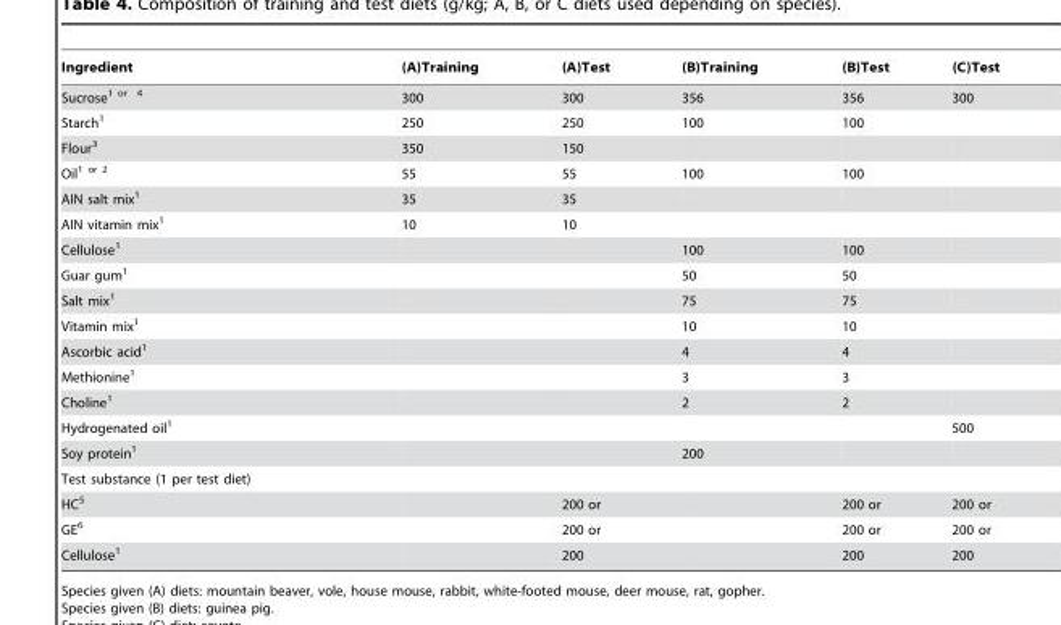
<table><thead><tr><td>Ingredient</td><td>(A)Training</td><td>(A)Test</td><td>(B)Training</td><td>(B)Test</td><td>(C)Test</td></tr></thead><tbody><tr><td>Sucrose<sup>1 or</sup> 4</td><td>300</td><td>300</td><td>356</td><td>356</td><td>300</td></tr><tr><td>Starch<sup>1</sup></td><td>250</td><td>250</td><td>100</td><td>100</td><td></td></tr><tr><td>Flour<sup>3</sup></td><td>350</td><td>150</td><td></td><td></td><td></td></tr><tr><td>Oil<sup>1 or</sup> 2</td><td>55</td><td>55</td><td>100</td><td>100</td><td></td></tr><tr><td>AIN salt mix<sup>1</sup></td><td>35</td><td>35</td><td></td><td></td><td></td></tr><tr><td>AIN vitamin mix<sup>1</sup></td><td>10</td><td>10</td><td></td><td></td><td></td></tr><tr><td>Cellulose<sup>1</sup></td><td></td><td></td><td>100</td><td>100</td><td></td></tr><tr><td>Guar gum<sup>1</sup></td><td></td><td></td><td>50</td><td>50</td><td></td></tr><tr><td>Salt mix<sup>1</sup></td><td></td><td></td><td>75</td><td>75</td><td></td></tr><tr><td>Vitamin mix<sup>1</sup></td><td></td><td></td><td>10</td><td>10</td><td></td></tr><tr><td>Ascorbic acid<sup>1</sup></td><td></td><td></td><td>4</td><td>4</td><td></td></tr><tr><td>Methionine<sup>1</sup></td><td></td><td></td><td>3</td><td>3</td><td></td></tr><tr><td>Choline<sup>1</sup></td><td></td><td></td><td>2</td><td>2</td><td></td></tr><tr><td>Hydrogenated oil<sup>1</sup></td><td></td><td></td><td></td><td></td><td>500</td></tr><tr><td>Soy protein<sup>1</sup></td><td></td><td></td><td>200</td><td></td><td></td></tr><tr><td colspan="6">Test substance (1 per test diet)</td></tr><tr><td>HC<sup>5</sup></td><td></td><td>200 or</td><td></td><td>200 or</td><td>200 or</td></tr><tr><td>GE<sup>6</sup></td><td></td><td>200 or</td><td></td><td>200 or</td><td>200 or</td></tr><tr><td>Cellulose<sup>1</sup></td><td></td><td>200</td><td></td><td>200</td><td>200</td></tr></tbody></table>